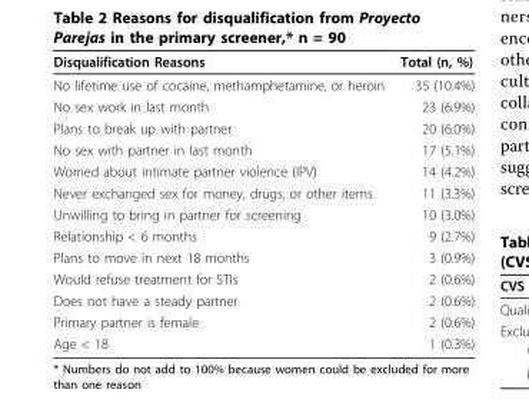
<table><thead><tr><td>Disqualification Reasons</td><td>Total (n, %)</td></tr></thead><tbody><tr><td>No lifetime use of cocaine, methamphetamine, or heroin</td><td>35 (10.4%)</td></tr><tr><td>No sex work in last month</td><td>23 (6.9%)</td></tr><tr><td>Plans to break up with partner</td><td>20 (6.0%)</td></tr><tr><td>No sex with partner in last month</td><td>17 (5.1%)</td></tr><tr><td>Worried about intimate partner violence (IPV)</td><td>14 (4.2%)</td></tr><tr><td>Never exchanged sex for money, drugs, or other items</td><td>11 (3.3%)</td></tr><tr><td>Unwilling to bring in partner for screening</td><td>10 (3.0%)</td></tr><tr><td>Relationship &lt; 6 months</td><td>9 (2.7%)</td></tr><tr><td>Plans to move in next 18 months</td><td>3 (0.9%)</td></tr><tr><td>Would refuse treatment for STIs</td><td>2 (0.6%)</td></tr><tr><td>Does not have a steady partner</td><td>2 (0.6%)</td></tr><tr><td>Primary partner is female</td><td>2 (0.6%)</td></tr><tr><td>Age &lt; 18</td><td>1 (0.3%)</td></tr></tbody></table>